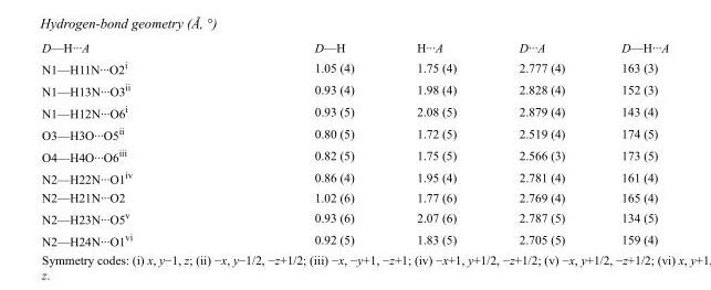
<table><tbody><tr><td>D—H···A</td><td>D—H</td><td>H···A</td><td>D···A</td><td>D—H···A</td></tr><tr><td>N1—H11N···O2<sup>i</sup></td><td>1.05 (4)</td><td>1.75 (4)</td><td>2.777 (4)</td><td>163 (3)</td></tr><tr><td>N1—H13N···O3<sup>ii</sup></td><td>0.93 (4)</td><td>1.98 (4)</td><td>2.828 (4)</td><td>152 (3)</td></tr><tr><td>N1—H12N···O6<sup>i</sup></td><td>0.93 (5)</td><td>2.08 (5)</td><td>2.879 (4)</td><td>143 (4)</td></tr><tr><td>O3—H3O···O5<sup>ii</sup></td><td>0.80 (5)</td><td>1.72 (5)</td><td>2.519 (4)</td><td>174 (5)</td></tr><tr><td>O4—H4O···O6<sup>iii</sup></td><td>0.82 (5)</td><td>1.75 (5)</td><td>2.566 (3)</td><td>173 (5)</td></tr><tr><td>N2—H22N···O1<sup>iv</sup></td><td>0.86 (4)</td><td>1.95 (4)</td><td>2.781 (4)</td><td>161 (4)</td></tr><tr><td>N2—H21N···O2</td><td>1.02 (6)</td><td>1.77 (6)</td><td>2.769 (4)</td><td>165 (4)</td></tr><tr><td>N2—H23N···O5<sup>v</sup></td><td>0.93 (6)</td><td>2.07 (6)</td><td>2.787 (5)</td><td>134 (5)</td></tr><tr><td>N2—H24N···O1<sup>vi</sup></td><td>0.92 (5)</td><td>1.83 (5)</td><td>2.705 (5)</td><td>159 (4)</td></tr></tbody></table>